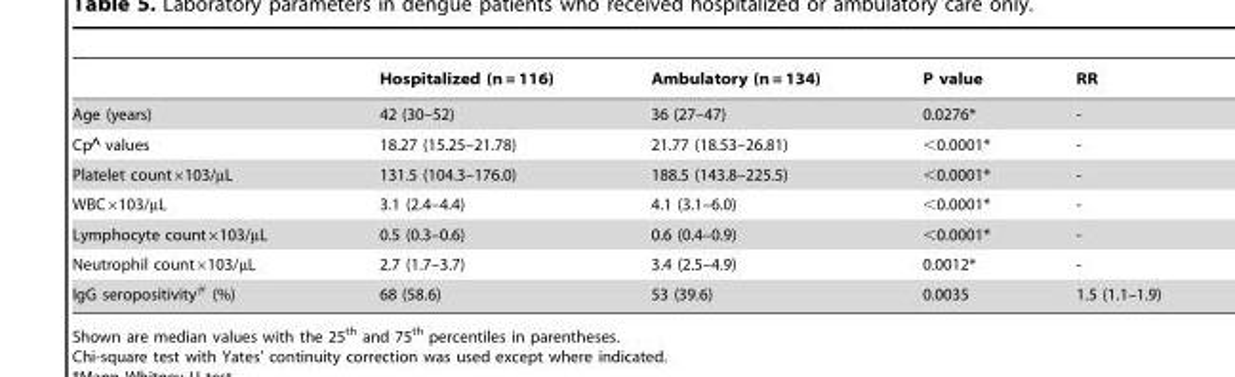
<table><thead><tr><td></td><td>Hospitalized (n = 116)</td><td>Ambulatory (n = 134)</td><td>P value</td><td>RR</td></tr></thead><tbody><tr><td>Age (years)</td><td>42 (30–52)</td><td>36 (27–47)</td><td>0.0276*</td><td>-</td></tr><tr><td>Cp‘ values</td><td>18.27 (15.25–21.78)</td><td>21.77 (18.53–26.81)</td><td>&lt;0.0001*</td><td>-</td></tr><tr><td>Platelet count×103/µL</td><td>131.5 (104.3–176.0)</td><td>188.5 (143.8–225.5)</td><td>&lt;0.0001*</td><td>-</td></tr><tr><td>WBC×103/µL</td><td>3.1 (2.4–4.4)</td><td>4.1 (3.1–6.0)</td><td>&lt;0.0001*</td><td>-</td></tr><tr><td>Lymphocyte count×103/µL</td><td>0.5 (0.3–0.6)</td><td>0.6 (0.4–0.9)</td><td>&lt;0.0001*</td><td>-</td></tr><tr><td>Neutrophil count×103/µL</td><td>2.7 (1.7–3.7)</td><td>3.4 (2.5–4.9)</td><td>0.0012*</td><td>-</td></tr><tr><td>IgG seropositivity# (%)</td><td>68 (58.6)</td><td>53 (39.6)</td><td>0.0035</td><td>1.5 (1.1–1.9)</td></tr></tbody></table>